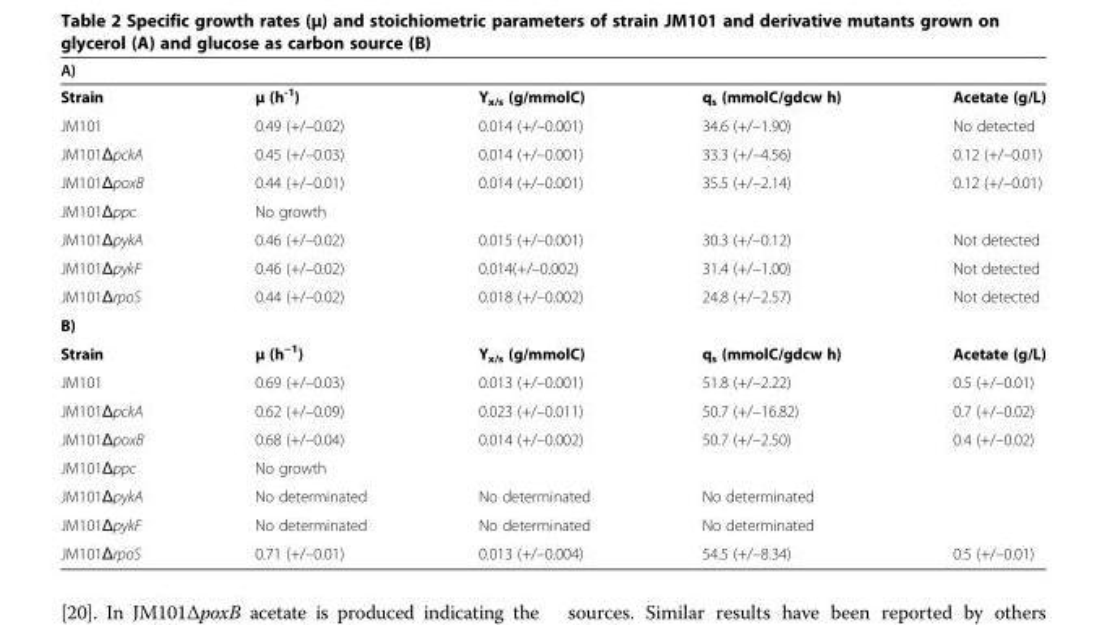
<table><thead><tr><td colspan="5">A)</td></tr><tr><td>Strain</td><td>μ (h<sup>-1</sup>)</td><td>Y<sub>x/s</sub> (g/mmolC)</td><td>q<sub>s</sub> (mmolC/gdcw h)</td><td>Acetate (g/L)</td></tr></thead><tbody><tr><td>JM101</td><td>0.49 (+/–0.02)</td><td>0.014 (+/–0.001)</td><td>34.6 (+/–1.90)</td><td>No detected</td></tr><tr><td>JM101ΔpckA</td><td>0.45 (+/–0.03)</td><td>0.014 (+/–0.001)</td><td>33.3 (+/–4.56)</td><td>0.12 (+/–0.01)</td></tr><tr><td>JM101ΔpoxB</td><td>0.44 (+/–0.01)</td><td>0.014 (+/–0.001)</td><td>35.5 (+/–2.14)</td><td>0.12 (+/–0.01)</td></tr><tr><td>JM101Δppc</td><td>No growth</td><td></td><td></td><td></td></tr><tr><td>JM101ΔpykA</td><td>0.46 (+/–0.02)</td><td>0.015 (+/–0.001)</td><td>30.3 (+/–0.12)</td><td>Not detected</td></tr><tr><td>JM101ΔpykF</td><td>0.46 (+/–0.02)</td><td>0.014(+/–0.002)</td><td>31.4 (+/–1.00)</td><td>Not detected</td></tr><tr><td>JM101ΔrpoS</td><td>0.44 (+/–0.02)</td><td>0.018 (+/–0.002)</td><td>24.8 (+/–2.57)</td><td>Not detected</td></tr><tr><td colspan="5">B)</td></tr><tr><td>Strain</td><td>μ (h<sup>−1</sup>)</td><td>Y<sub>x/s</sub> (g/mmolC)</td><td>q<sub>s</sub> (mmolC/gdcw h)</td><td>Acetate (g/L)</td></tr><tr><td>JM101</td><td>0.69 (+/–0.03)</td><td>0.013 (+/–0.001)</td><td>51.8 (+/–2.22)</td><td>0.5 (+/–0.01)</td></tr><tr><td>JM101ΔpckA</td><td>0.62 (+/–0.09)</td><td>0.023 (+/–0.011)</td><td>50.7 (+/–16.82)</td><td>0.7 (+/–0.02)</td></tr><tr><td>JM101ΔpoxB</td><td>0.68 (+/–0.04)</td><td>0.014 (+/–0.002)</td><td>50.7 (+/–2.50)</td><td>0.4 (+/–0.02)</td></tr><tr><td>JM101Δppc</td><td>No growth</td><td></td><td></td><td></td></tr><tr><td>JM101ΔpykA</td><td>No determinated</td><td>No determinated</td><td>No determinated</td><td></td></tr><tr><td>JM101ΔpykF</td><td>No determinated</td><td>No determinated</td><td>No determinated</td><td></td></tr><tr><td>JM101ΔrpoS</td><td>0.71 (+/–0.01)</td><td>0.013 (+/–0.004)</td><td>54.5 (+/–8.34)</td><td>0.5 (+/–0.01)</td></tr></tbody></table>